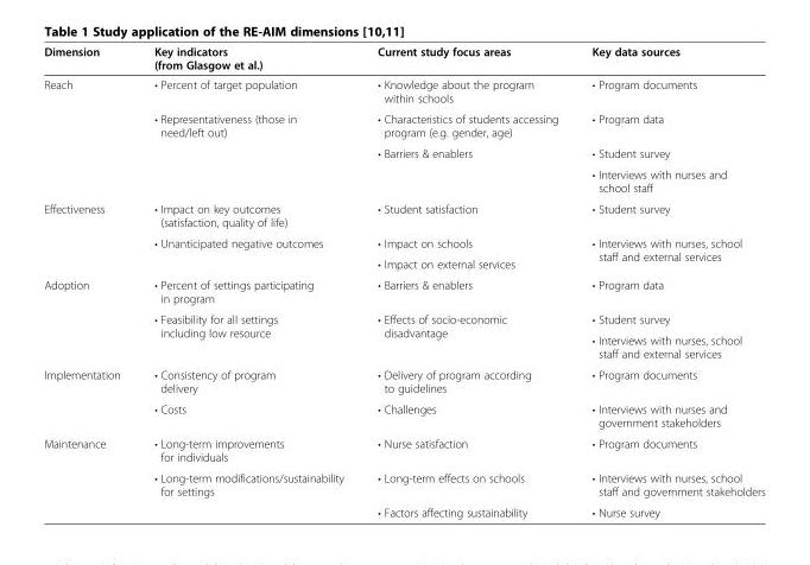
<table><thead><tr><td>Dimension</td><td>Key indicators (from Glasgow et al.)</td><td>Current study focus areas</td><td>Key data sources</td></tr></thead><tbody><tr><td rowspan="4">Reach</td><td>• Percent of target population</td><td>• Knowledge about the program within schools</td><td>• Program documents</td></tr><tr><td>• Representativeness (those in need/left out)</td><td>• Characteristics of students accessing program (e.g. gender, age)</td><td>• Program data</td></tr><tr><td rowspan="2"></td><td rowspan="2">• Barriers &amp; enablers</td><td>• Student survey</td></tr><tr><td>• Interviews with nurses and school staff</td></tr><tr><td rowspan="3">Effectiveness</td><td>• Impact on key outcomes (satisfaction, quality of life)</td><td>• Student satisfaction</td><td>• Student survey</td></tr><tr><td rowspan="2">• Unanticipated negative outcomes</td><td>• Impact on schools</td><td rowspan="2">• Interviews with nurses, school staff and external services</td></tr><tr><td>• Impact on external services</td></tr><tr><td rowspan="3">Adoption</td><td>• Percent of settings participating in program</td><td>• Barriers &amp; enablers</td><td>• Program data</td></tr><tr><td rowspan="2">• Feasibility for all settings including low resource</td><td rowspan="2">• Effects of socio-economic disadvantage</td><td>• Student survey</td></tr><tr><td>• Interviews with nurses, school staff and external services</td></tr><tr><td rowspan="2">Implementation</td><td>• Consistency of program delivery</td><td>• Delivery of program according to guidelines</td><td>• Program documents</td></tr><tr><td>• Costs</td><td>• Challenges</td><td>• Interviews with nurses and government stakeholders</td></tr><tr><td rowspan="3">Maintenance</td><td>• Long-term improvements for individuals</td><td>• Nurse satisfaction</td><td>• Program documents</td></tr><tr><td rowspan="2">• Long-term modifications/sustainability for settings</td><td>• Long-term effects on schools</td><td>• Interviews with nurses, school staff and government stakeholders</td></tr><tr><td>• Factors affecting sustainability</td><td>• Nurse survey</td></tr></tbody></table>